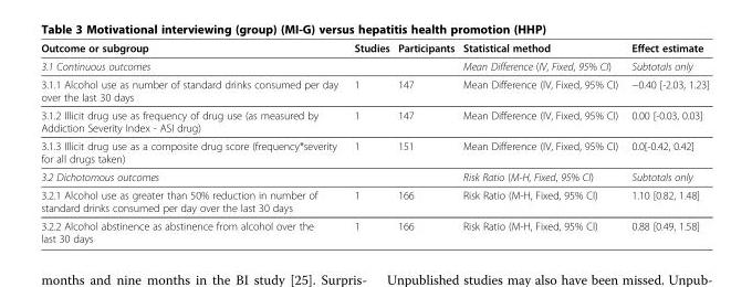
<table><thead><tr><td>Outcome or subgroup</td><td>Studies</td><td>Participants</td><td>Statistical method</td><td>Effect estimate</td></tr></thead><tbody><tr><td>3.1 Continuous outcomes</td><td></td><td></td><td>Mean Difference (IV, Fixed, 95% CI)</td><td>Subtotals only</td></tr><tr><td>3.1.1 Alcohol use as number of standard drinks consumed per day over the last 30 days</td><td>1</td><td>147</td><td>Mean Difference (IV, Fixed, 95% CI)</td><td>−0.40 [-2.03, 1.23]</td></tr><tr><td>3.1.2 Illicit drug use as frequency of drug use (as measured by Addiction Severity Index - ASI drug)</td><td>1</td><td>147</td><td>Mean Difference (IV, Fixed, 95% CI)</td><td>0.00 [-0.03, 0.03]</td></tr><tr><td>3.1.3 Illicit drug use as a composite drug score (frequency*severity for all drugs taken)</td><td>1</td><td>151</td><td>Mean Difference (IV, Fixed, 95% CI)</td><td>0.0[-0.42, 0.42]</td></tr><tr><td>3.2 Dichotomous outcomes</td><td></td><td></td><td>Risk Ratio (M-H, Fixed, 95% CI)</td><td>Subtotals only</td></tr><tr><td>3.2.1 Alcohol use as greater than 50% reduction in number of standard drinks consumed per day over the last 30 days</td><td>1</td><td>166</td><td>Risk Ratio (M-H, Fixed, 95% CI)</td><td>1.10 [0.82, 1.48]</td></tr><tr><td>3.2.2 Alcohol abstinence as abstinence from alcohol over the last 30 days</td><td>1</td><td>166</td><td>Risk Ratio (M-H, Fixed, 95% CI)</td><td>0.88 [0.49, 1.58]</td></tr></tbody></table>